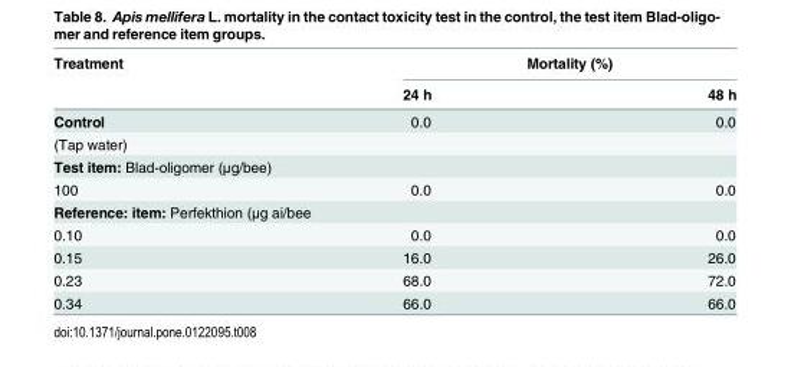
<table><thead><tr><td rowspan="2">Treatment</td><td colspan="2">Mortality (%)</td></tr><tr><td>24 h</td><td>48 h</td></tr></thead><tbody><tr><td>Control</td><td>0.0</td><td>0.0</td></tr><tr><td colspan="3">(Tap water)</td></tr><tr><td colspan="3">Test item: Blad-oligomer (μg/bee)</td></tr><tr><td>100</td><td>0.0</td><td>0.0</td></tr><tr><td colspan="3">Reference: item: Perfekthion (μg ai/bee</td></tr><tr><td>0.10</td><td>0.0</td><td>0.0</td></tr><tr><td>0.15</td><td>16.0</td><td>26.0</td></tr><tr><td>0.23</td><td>68.0</td><td>72.0</td></tr><tr><td>0.34</td><td>66.0</td><td>66.0</td></tr></tbody></table>